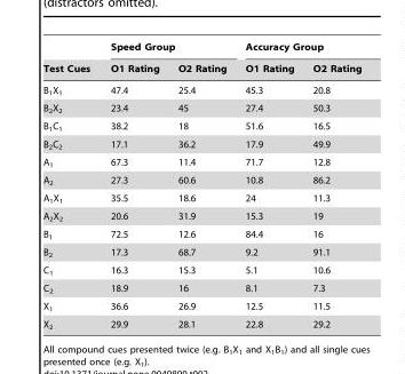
<table><thead><tr><td rowspan="2">Test Cues</td><td colspan="2">Speed Group</td><td colspan="2">Accuracy Group</td></tr><tr><td>O1 Rating</td><td>O2 Rating</td><td>O1 Rating</td><td>O2 Rating</td></tr></thead><tbody><tr><td>B<sub>1</sub>X<sub>1</sub></td><td>47.4</td><td>25.4</td><td>45.3</td><td>20.8</td></tr><tr><td>B<sub>2</sub>X<sub>2</sub></td><td>23.4</td><td>45</td><td>27.4</td><td>50.3</td></tr><tr><td>B<sub>1</sub>C<sub>1</sub></td><td>38.2</td><td>18</td><td>51.6</td><td>16.5</td></tr><tr><td>B<sub>2</sub>C<sub>2</sub></td><td>17.1</td><td>36.2</td><td>17.9</td><td>49.9</td></tr><tr><td>A<sub>1</sub></td><td>67.3</td><td>11.4</td><td>71.7</td><td>12.8</td></tr><tr><td>A<sub>2</sub></td><td>27.3</td><td>60.6</td><td>10.8</td><td>86.2</td></tr><tr><td>A<sub>1</sub>X<sub>1</sub></td><td>35.5</td><td>18.6</td><td>24</td><td>11.3</td></tr><tr><td>A<sub>2</sub>X<sub>2</sub></td><td>20.6</td><td>31.9</td><td>15.3</td><td>19</td></tr><tr><td>B<sub>1</sub></td><td>72.5</td><td>12.6</td><td>84.4</td><td>16</td></tr><tr><td>B<sub>2</sub></td><td>17.3</td><td>68.7</td><td>9.2</td><td>91.1</td></tr><tr><td>C<sub>1</sub></td><td>16.3</td><td>15.3</td><td>5.1</td><td>10.6</td></tr><tr><td>C<sub>2</sub></td><td>18.9</td><td>16</td><td>8.1</td><td>7.3</td></tr><tr><td>X<sub>1</sub></td><td>36.6</td><td>26.9</td><td>12.5</td><td>11.5</td></tr><tr><td>X<sub>2</sub></td><td>29.9</td><td>28.1</td><td>22.8</td><td>29.2</td></tr></tbody></table>